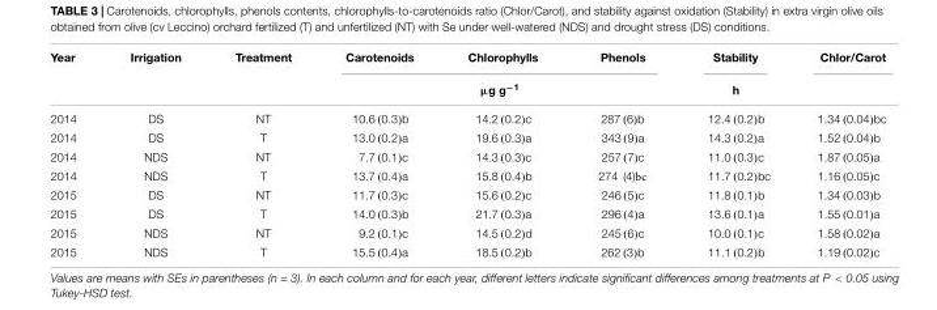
<table><thead><tr><td rowspan="2">Year</td><td rowspan="2">Irrigation</td><td rowspan="2">Treatment</td><td>Carotenoids</td><td>Chlorophylls</td><td>Phenols</td><td rowspan="2">Stability h</td><td rowspan="2">Chlor/Carot</td></tr><tr><td colspan="3">µg g<sup>−1</sup></td></tr></thead><tbody><tr><td>2014</td><td>DS</td><td>NT</td><td>10.6 (0.3)b</td><td>14.2 (0.2)c</td><td>287 (6)b</td><td>12.4 (0.2)b</td><td>1.34 (0.04)bc</td></tr><tr><td>2014</td><td>DS</td><td>T</td><td>13.0 (0.2)a</td><td>19.6 (0.3)a</td><td>343 (9)a</td><td>14.3 (0.2)a</td><td>1.52 (0.04)b</td></tr><tr><td>2014</td><td>NDS</td><td>NT</td><td>7.7 (0.1)c</td><td>14.3 (0.3)c</td><td>257 (7)c</td><td>11.0 (0.3)c</td><td>1.87 (0.05)a</td></tr><tr><td>2014</td><td>NDS</td><td>T</td><td>13.7 (0.4)a</td><td>15.8 (0.4)b</td><td>274 (4)bc</td><td>11.7 (0.2)bc</td><td>1.16 (0.05)c</td></tr><tr><td>2015</td><td>DS</td><td>NT</td><td>11.7 (0.3)c</td><td>15.6 (0.2)c</td><td>246 (5)c</td><td>11.8 (0.1)b</td><td>1.34 (0.03)b</td></tr><tr><td>2015</td><td>DS</td><td>T</td><td>14.0 (0.3)b</td><td>21.7 (0.3)a</td><td>296 (4)a</td><td>13.6 (0.1)a</td><td>1.55 (0.01)a</td></tr><tr><td>2015</td><td>NDS</td><td>NT</td><td>9.2 (0.1)c</td><td>14.5 (0.2)d</td><td>245 (6)c</td><td>10.0 (0.1)c</td><td>1.58 (0.02)a</td></tr><tr><td>2015</td><td>NDS</td><td>T</td><td>15.5 (0.4)a</td><td>18.5 (0.2)b</td><td>262 (3)b</td><td>11.1 (0.2)b</td><td>1.19 (0.02)c</td></tr></tbody></table>